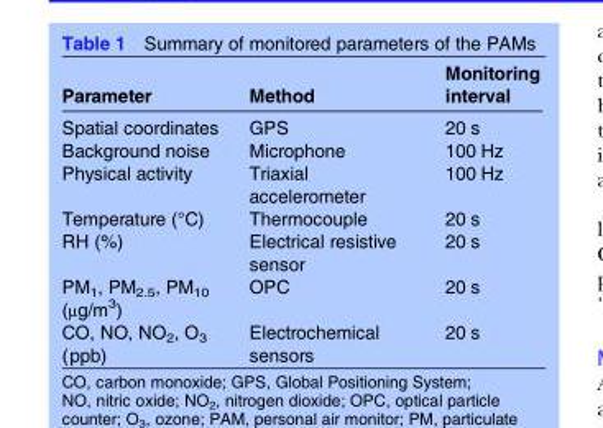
<table><thead><tr><td>Parameter</td><td>Method</td><td>Monitoring interval</td></tr></thead><tbody><tr><td>Spatial coordinates</td><td>GPS</td><td>20 s</td></tr><tr><td>Background noise</td><td>Microphone</td><td>100 Hz</td></tr><tr><td>Physical activity</td><td>Triaxial accelerometer</td><td>100 Hz</td></tr><tr><td>Temperature (°C)</td><td>Thermocouple</td><td>20 s</td></tr><tr><td>RH (%)</td><td>Electrical resistive sensor</td><td>20 s</td></tr><tr><td>PM<sub>1</sub>, PM<sub>2.5</sub>, PM<sub>10</sub> (μg/m<sup>3</sup>)</td><td>OPC</td><td>20 s</td></tr><tr><td>CO, NO, NO<sub>2</sub>, O<sub>3</sub> (ppb)</td><td>Electrochemical sensors</td><td>20 s</td></tr></tbody></table>